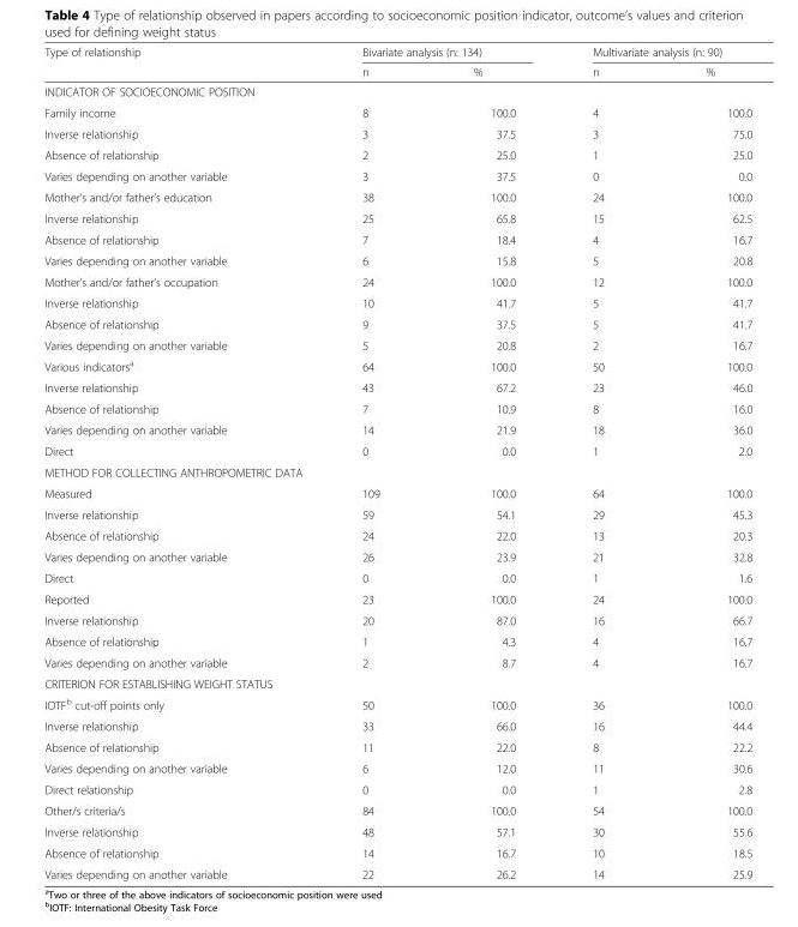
<table><thead><tr><td rowspan="2">Type of relationship</td><td colspan="2">Bivariate analysis (n: 134)</td><td colspan="2">Multivariate analysis (n: 90)</td></tr><tr><td>n</td><td>%</td><td>n</td><td>%</td></tr></thead><tbody><tr><td colspan="5">INDICATOR OF SOCIOECONOMIC POSITION</td></tr><tr><td>Family income</td><td>8</td><td>100.0</td><td>4</td><td>100.0</td></tr><tr><td>Inverse relationship</td><td>3</td><td>37.5</td><td>3</td><td>75.0</td></tr><tr><td>Absence of relationship</td><td>2</td><td>25.0</td><td>1</td><td>25.0</td></tr><tr><td>Varies depending on another variable</td><td>3</td><td>37.5</td><td>0</td><td>0.0</td></tr><tr><td>Mother’s and/or father’s education</td><td>38</td><td>100.0</td><td>24</td><td>100.0</td></tr><tr><td>Inverse relationship</td><td>25</td><td>65.8</td><td>15</td><td>62.5</td></tr><tr><td>Absence of relationship</td><td>7</td><td>18.4</td><td>4</td><td>16.7</td></tr><tr><td>Varies depending on another variable</td><td>6</td><td>15.8</td><td>5</td><td>20.8</td></tr><tr><td>Mother’s and/or father’s occupation</td><td>24</td><td>100.0</td><td>12</td><td>100.0</td></tr><tr><td>Inverse relationship</td><td>10</td><td>41.7</td><td>5</td><td>41.7</td></tr><tr><td>Absence of relationship</td><td>9</td><td>37.5</td><td>5</td><td>41.7</td></tr><tr><td>Varies depending on another variable</td><td>5</td><td>20.8</td><td>2</td><td>16.7</td></tr><tr><td>Various indicators<sup>a</sup></td><td>64</td><td>100.0</td><td>50</td><td>100.0</td></tr><tr><td>Inverse relationship</td><td>43</td><td>67.2</td><td>23</td><td>46.0</td></tr><tr><td>Absence of relationship</td><td>7</td><td>10.9</td><td>8</td><td>16.0</td></tr><tr><td>Varies depending on another variable</td><td>14</td><td>21.9</td><td>18</td><td>36.0</td></tr><tr><td>Direct</td><td>0</td><td>0.0</td><td>1</td><td>2.0</td></tr><tr><td colspan="5">METHOD FOR COLLECTING ANTHROPOMETRIC DATA</td></tr><tr><td>Measured</td><td>109</td><td>100.0</td><td>64</td><td>100.0</td></tr><tr><td>Inverse relationship</td><td>59</td><td>54.1</td><td>29</td><td>45.3</td></tr><tr><td>Absence of relationship</td><td>24</td><td>22.0</td><td>13</td><td>20.3</td></tr><tr><td>Varies depending on another variable</td><td>26</td><td>23.9</td><td>21</td><td>32.8</td></tr><tr><td>Direct</td><td>0</td><td>0.0</td><td>1</td><td>1.6</td></tr><tr><td>Reported</td><td>23</td><td>100.0</td><td>24</td><td>100.0</td></tr><tr><td>Inverse relationship</td><td>20</td><td>87.0</td><td>16</td><td>66.7</td></tr><tr><td>Absence of relationship</td><td>1</td><td>4.3</td><td>4</td><td>16.7</td></tr><tr><td>Varies depending on another variable</td><td>2</td><td>8.7</td><td>4</td><td>16.7</td></tr><tr><td colspan="5">CRITERION FOR ESTABLISHING WEIGHT STATUS</td></tr><tr><td>IOTF<sup>b</sup> cut-off points only</td><td>50</td><td>100.0</td><td>36</td><td>100.0</td></tr><tr><td>Inverse relationship</td><td>33</td><td>66.0</td><td>16</td><td>44.4</td></tr><tr><td>Absence of relationship</td><td>11</td><td>22.0</td><td>8</td><td>22.2</td></tr><tr><td>Varies depending on another variable</td><td>6</td><td>12.0</td><td>11</td><td>30.6</td></tr><tr><td>Direct relationship</td><td>0</td><td>0.0</td><td>1</td><td>2.8</td></tr><tr><td>Other/s criteria/s</td><td>84</td><td>100.0</td><td>54</td><td>100.0</td></tr><tr><td>Inverse relationship</td><td>48</td><td>57.1</td><td>30</td><td>55.6</td></tr><tr><td>Absence of relationship</td><td>14</td><td>16.7</td><td>10</td><td>18.5</td></tr><tr><td>Varies depending on another variable</td><td>22</td><td>26.2</td><td>14</td><td>25.9</td></tr></tbody></table>